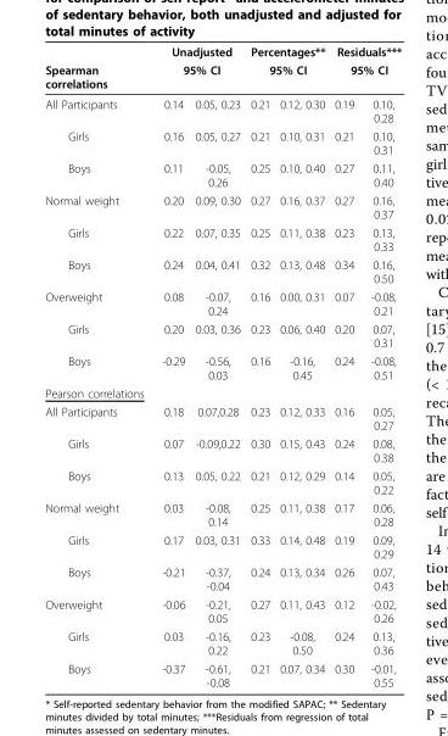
<table><thead><tr><td rowspan="3">Spearman correlations All Participants</td><td rowspan="2" colspan="2">Unadjusted 95% CI</td><td rowspan="2" colspan="2">Percentages** 95% CI</td><td rowspan="2" colspan="2">Residuals*** 95% CI</td></tr><tr></tr><tr><td>0.14</td><td>0.05, 0.23</td><td>0.21</td><td>0.12, 0.30</td><td>0.19</td><td>0.10, 0.28</td></tr></thead><tbody><tr><td>Girls</td><td>0.16</td><td>0.05, 0.27</td><td>0.21</td><td>0.10, 0.31</td><td>0.21</td><td>0.10, 0.31</td></tr><tr><td>Boys</td><td>0.11</td><td>-0.05, 0.26</td><td>0.25</td><td>0.10, 0.40</td><td>0.27</td><td>0.11, 0.40</td></tr><tr><td>Normal weight</td><td>0.20</td><td>0.09, 0.30</td><td>0.27</td><td>0.16, 0.37</td><td>0.27</td><td>0.16, 0.37</td></tr><tr><td>Girls</td><td>0.22</td><td>0.07, 0.35</td><td>0.25</td><td>0.11, 0.38</td><td>0.23</td><td>0.13, 0.33</td></tr><tr><td>Boys</td><td>0.24</td><td>0.04, 0.41</td><td>0.32</td><td>0.13, 0.48</td><td>0.34</td><td>0.16, 0.50</td></tr><tr><td>Overweight</td><td>0.08</td><td>-0.07, 0.24</td><td>0.16</td><td>0.00, 0.31</td><td>0.07</td><td>-0.08, 0.21</td></tr><tr><td>Girls</td><td>0.20</td><td>0.03, 0.36</td><td>0.23</td><td>0.06, 0.40</td><td>0.20</td><td>0.07, 0.31</td></tr><tr><td>Boys</td><td>-0.29</td><td>-0.56, 0.03</td><td>0.16</td><td>-0.16, 0.45</td><td>0.24</td><td>-0.08, 0.51</td></tr><tr><td colspan="7">Pearson correlations</td></tr><tr><td>All Participants</td><td>0.18</td><td>0.07,0.28</td><td>0.23</td><td>0.12, 0.33</td><td>0.16</td><td>0.05, 0.27</td></tr><tr><td>Girls</td><td>0.07</td><td>-0.09,0.22</td><td>0.30</td><td>0.15, 0.43</td><td>0.24</td><td>0.08, 0.38</td></tr><tr><td>Boys</td><td>0.13</td><td>0.05, 0.22</td><td>0.21</td><td>0.12, 0.29</td><td>0.14</td><td>0.05, 0.22</td></tr><tr><td>Normal weight</td><td>0.03</td><td>-0.08, 0.14</td><td>0.25</td><td>0.11, 0.38</td><td>0.17</td><td>0.06, 0.28</td></tr><tr><td>Girls</td><td>0.17</td><td>0.03, 0.31</td><td>0.33</td><td>0.14, 0.48</td><td>0.19</td><td>0.09, 0.29</td></tr><tr><td>Boys</td><td>-0.21</td><td>-0.37, -0.04</td><td>0.24</td><td>0.13, 0.34</td><td>0.26</td><td>0.07, 0.43</td></tr><tr><td>Overweight</td><td>-0.06</td><td>-0.21, 0.05</td><td>0.27</td><td>0.11, 0.43</td><td>0.12</td><td>-0.02, 0.26</td></tr><tr><td>Girls</td><td>0.03</td><td>-0.16, 0.22</td><td>0.23</td><td>-0.08, 0.50</td><td>0.24</td><td>0.13, 0.36</td></tr><tr><td>Boys</td><td>-0.37</td><td>-0.61, -0.08</td><td>0.21</td><td>0.07, 0.34</td><td>0.30</td><td>-0.01, 0.55</td></tr></tbody></table>